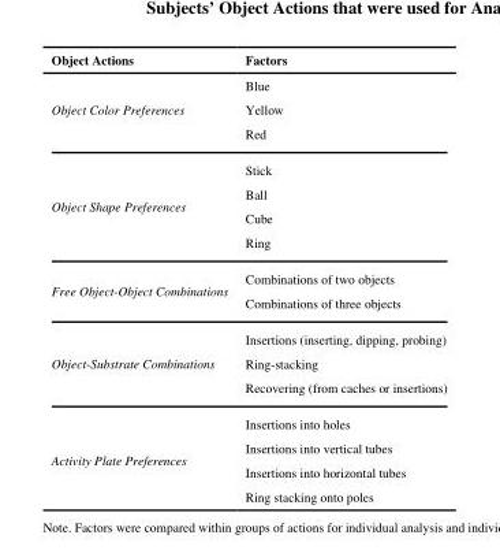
<table><thead><tr><td>Object Actions</td><td>Factors</td></tr></thead><tbody><tr><td rowspan="3">Object Color Preferences</td><td>Blue</td></tr><tr><td>Yellow</td></tr><tr><td>Red</td></tr><tr><td rowspan="4">Object Shape Preferences</td><td>Stick</td></tr><tr><td>Ball</td></tr><tr><td>Cube</td></tr><tr><td>Ring</td></tr><tr><td rowspan="2">Free Object-Object Combinations</td><td>Combinations of two objects</td></tr><tr><td>Combinations of three objects</td></tr><tr><td rowspan="3">Object-Substrate Combinations</td><td>Insertions (inserting, dipping, probing)</td></tr><tr><td>Ring-stacking</td></tr><tr><td>Recovering (from caches or insertions)</td></tr><tr><td rowspan="4">Activity Plate Preferences</td><td>Insertions into holes</td></tr><tr><td>Insertions into vertical tubes</td></tr><tr><td>Insertions into horizontal tubes</td></tr><tr><td>Ring stacking onto poles</td></tr></tbody></table>